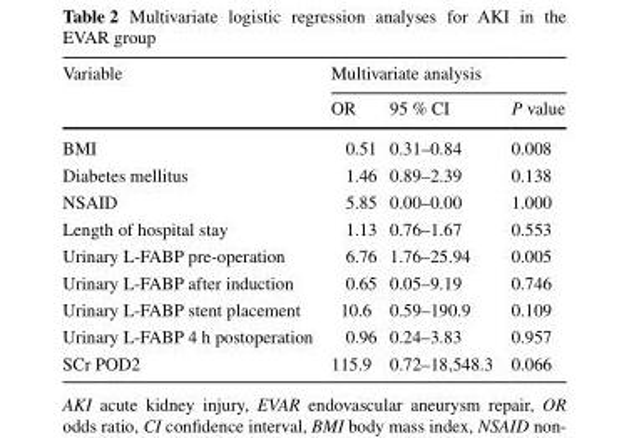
<table><thead><tr><td rowspan="2">Variable</td><td colspan="3">Multivariate analysis</td></tr><tr><td>OR</td><td>95 % CI</td><td>P value</td></tr></thead><tbody><tr><td>BMI</td><td>0.51</td><td>0.31–0.84</td><td>0.008</td></tr><tr><td>Diabetes mellitus</td><td>1.46</td><td>0.89–2.39</td><td>0.138</td></tr><tr><td>NSAID</td><td>5.85</td><td>0.00–0.00</td><td>1.000</td></tr><tr><td>Length of hospital stay</td><td>1.13</td><td>0.76–1.67</td><td>0.553</td></tr><tr><td>Urinary L-FABP pre-operation</td><td>6.76</td><td>1.76–25.94</td><td>0.005</td></tr><tr><td>Urinary L-FABP after induction</td><td>0.65</td><td>0.05–9.19</td><td>0.746</td></tr><tr><td>Urinary L-FABP stent placement</td><td>10.6</td><td>0.59–190.9</td><td>0.109</td></tr><tr><td>Urinary L-FABP 4 h postoperation</td><td>0.96</td><td>0.24–3.83</td><td>0.957</td></tr><tr><td>SCr POD2</td><td>115.9</td><td>0.72–18,548.3</td><td>0.066</td></tr></tbody></table>